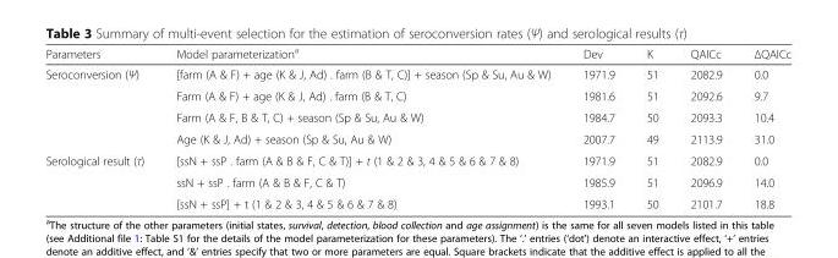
<table><thead><tr><td>Parameters</td><td>Model parameterization<sup>a</sup></td><td>Dev</td><td>K</td><td>QAICc</td><td>ΔQAICc</td></tr></thead><tbody><tr><td rowspan="4">Seroconversion (Ψ)</td><td>[farm (A &amp; F) + age (K &amp; J, Ad) . farm (B &amp; T, C)] + season (Sp &amp; Su, Au &amp; W)</td><td>1971.9</td><td>51</td><td>2082.9</td><td>0.0</td></tr><tr><td>Farm (A &amp; F) + age (K &amp; J, Ad) . farm (B &amp; T, C)</td><td>1981.6</td><td>51</td><td>2092.6</td><td>9.7</td></tr><tr><td>Farm (A &amp; F, B &amp; T, C) + season (Sp &amp; Su, Au &amp; W)</td><td>1984.7</td><td>50</td><td>2093.3</td><td>10.4</td></tr><tr><td>Age (K &amp; J, Ad) + season (Sp &amp; Su, Au &amp; W)</td><td>2007.7</td><td>49</td><td>2113.9</td><td>31.0</td></tr><tr><td rowspan="3">Serological result (τ)</td><td>[ssN + ssP . farm (A &amp; B &amp; F, C &amp; T)] + t (1 &amp; 2 &amp; 3, 4 &amp; 5 &amp; 6 &amp; 7 &amp; 8)</td><td>1971.9</td><td>51</td><td>2082.9</td><td>0.0</td></tr><tr><td>ssN + ssP . farm (A &amp; B &amp; F, C &amp; T)</td><td>1985.9</td><td>51</td><td>2096.9</td><td>14.0</td></tr><tr><td>[ssN + ssP] + t (1 &amp; 2 &amp; 3, 4 &amp; 5 &amp; 6 &amp; 7 &amp; 8)</td><td>1993.1</td><td>50</td><td>2101.7</td><td>18.8</td></tr></tbody></table>